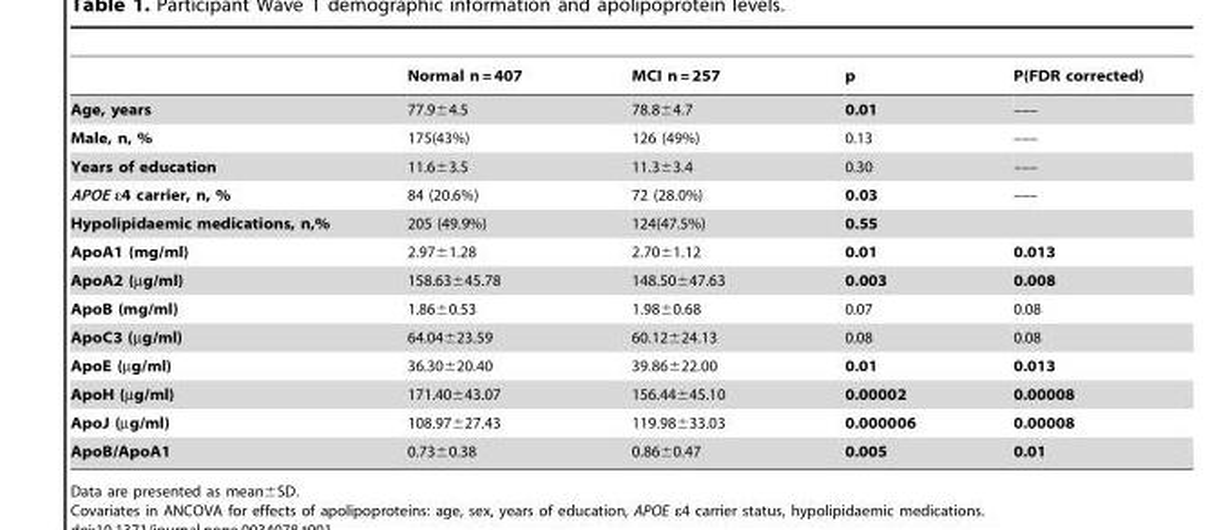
<table><thead><tr><td></td><td>Normal n = 407</td><td>MCI n = 257</td><td>p</td><td>P(FDR corrected)</td></tr></thead><tbody><tr><td>Age, years</td><td>77.9±4.5</td><td>78.8±4.7</td><td>0.01</td><td>–––</td></tr><tr><td>Male, n, %</td><td>175(43%)</td><td>126 (49%)</td><td>0.13</td><td>–––</td></tr><tr><td>Years of education</td><td>11.6±3.5</td><td>11.3±3.4</td><td>0.30</td><td>–––</td></tr><tr><td>APOE ε4 carrier, n, %</td><td>84 (20.6%)</td><td>72 (28.0%)</td><td>0.03</td><td>–––</td></tr><tr><td>Hypolipidaemic medications, n,%</td><td>205 (49.9%)</td><td>124(47.5%)</td><td colspan="2">0.55</td></tr><tr><td>ApoA1 (mg/ml)</td><td>2.97±1.28</td><td>2.70±1.12</td><td>0.01</td><td>0.013</td></tr><tr><td>ApoA2 (µg/ml)</td><td>158.63±45.78</td><td>148.50±47.63</td><td>0.003</td><td>0.008</td></tr><tr><td>ApoB (mg/ml)</td><td>1.86±0.53</td><td>1.98±0.68</td><td>0.07</td><td>0.08</td></tr><tr><td>ApoC3 (µg/ml)</td><td>64.04±23.59</td><td>60.12±24.13</td><td>0.08</td><td>0.08</td></tr><tr><td>ApoE (µg/ml)</td><td>36.30±20.40</td><td>39.86±22.00</td><td>0.01</td><td>0.013</td></tr><tr><td>ApoH (µg/ml)</td><td>171.40±43.07</td><td>156.44±45.10</td><td>0.00002</td><td>0.00008</td></tr><tr><td>ApoJ (µg/ml)</td><td>108.97±27.43</td><td>119.98±33.03</td><td>0.000006</td><td>0.00008</td></tr><tr><td>ApoB/ApoA1</td><td>0.73±0.38</td><td>0.86±0.47</td><td>0.005</td><td>0.01</td></tr></tbody></table>